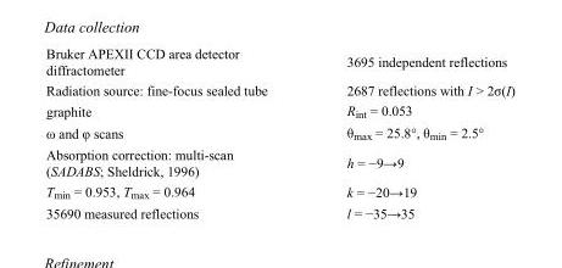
<table><tbody><tr><td>Bruker APEXII CCD area detector diffractometer</td><td>3695 independent reflections</td></tr><tr><td>Radiation source: fine-focus sealed tube</td><td>2687 reflections with I &gt; 2σ(I)</td></tr><tr><td>graphite</td><td>R<sub>int</sub> = 0.053</td></tr><tr><td>ω and φ scans</td><td>θ<sub>max</sub> = 25.8°, θ<sub>min</sub> = 2.5°</td></tr><tr><td>Absorption correction: multi-scan (SADABS; Sheldrick, 1996)</td><td>h = −9→9</td></tr><tr><td>T<sub>min</sub> = 0.953, T<sub>max</sub> = 0.964</td><td>k = −20→19</td></tr><tr><td>35690 measured reflections</td><td>l = −35→35</td></tr></tbody></table>